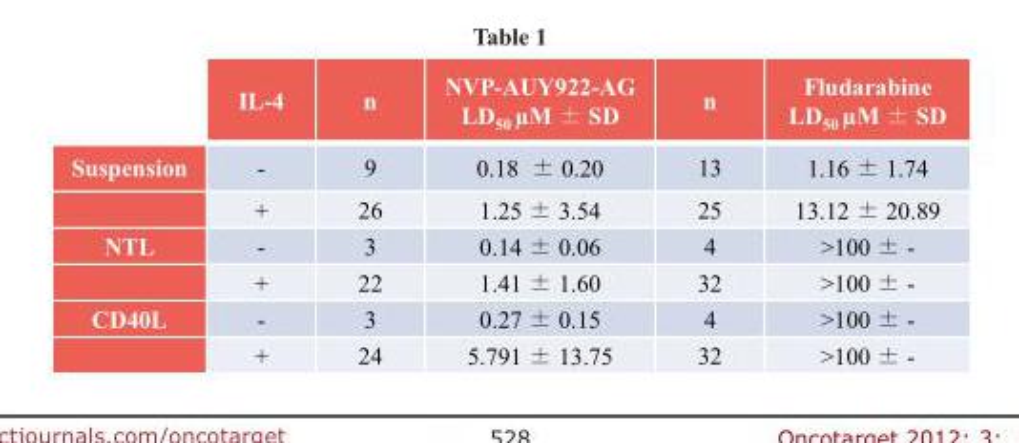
<table><thead><tr><td></td><td>IL-4</td><td>n</td><td>NVP-AUY922-AG LD<sub>50</sub> µM ± SD</td><td>n</td><td>Fludarabine LD<sub>50</sub> µM ± SD</td></tr></thead><tbody><tr><td rowspan="2">Suspension</td><td>-</td><td>9</td><td>0.18 ± 0.20</td><td>13</td><td>1.16 ± 1.74</td></tr><tr><td>+</td><td>26</td><td>1.25 ± 3.54</td><td>25</td><td>13.12 ± 20.89</td></tr><tr><td rowspan="2">NTL</td><td>-</td><td>3</td><td>0.14 ± 0.06</td><td>4</td><td>&gt;100 ± -</td></tr><tr><td>+</td><td>22</td><td>1.41 ± 1.60</td><td>32</td><td>&gt;100 ± -</td></tr><tr><td rowspan="2">CD40L</td><td>-</td><td>3</td><td>0.27 ± 0.15</td><td>4</td><td>&gt;100 ± -</td></tr><tr><td>+</td><td>24</td><td>5.791 ± 13.75</td><td>32</td><td>&gt;100 ± -</td></tr></tbody></table>